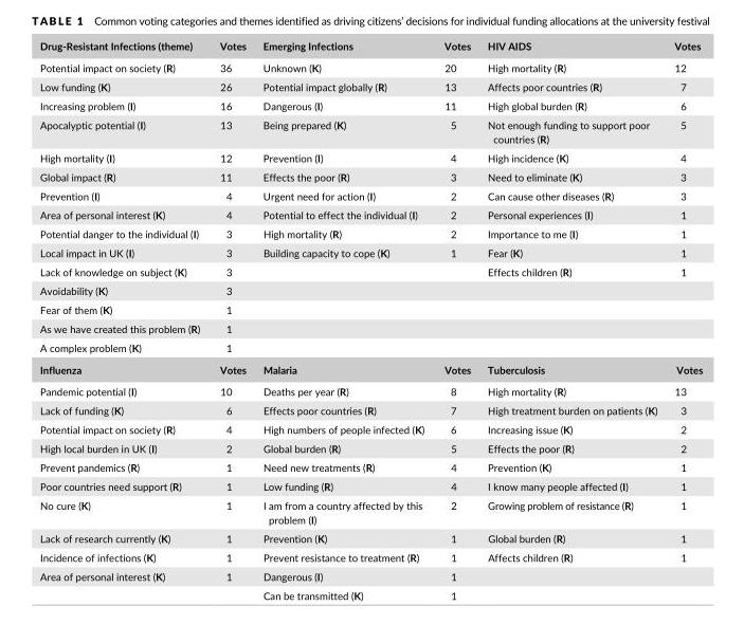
<table><tbody><tr><td>Drug-Resistant Infections (theme)</td><td>Votes</td><td>Emerging Infections</td><td>Votes</td><td>HIV AIDS</td><td>Votes</td></tr><tr><td>Potential impact on society (R)</td><td>36</td><td>Unknown (K)</td><td>20</td><td>High mortality (R)</td><td>12</td></tr><tr><td>Low funding (K)</td><td>26</td><td>Potential impact globally (R)</td><td>13</td><td>Affects poor countries (R)</td><td>7</td></tr><tr><td>Increasing problem (I)</td><td>16</td><td>Dangerous (I)</td><td>11</td><td>High global burden (R)</td><td>6</td></tr><tr><td>Apocalyptic potential (I)</td><td>13</td><td>Being prepared (K)</td><td>5</td><td>Not enough funding to support poor countries (R)</td><td>5</td></tr><tr><td>High mortality (I)</td><td>12</td><td>Prevention (I)</td><td>4</td><td>High incidence (K)</td><td>4</td></tr><tr><td>Global impact (R)</td><td>11</td><td>Effects the poor (R)</td><td>3</td><td>Need to eliminate (K)</td><td>3</td></tr><tr><td>Prevention (I)</td><td>4</td><td>Urgent need for action (I)</td><td>2</td><td>Can cause other diseases (R)</td><td>3</td></tr><tr><td>Area of personal interest (K)</td><td>4</td><td>Potential to effect the individual (I)</td><td>2</td><td>Personal experiences (I)</td><td>1</td></tr><tr><td>Potential danger to the individual (I)</td><td>3</td><td>High mortality (R)</td><td>2</td><td>Importance to me (I)</td><td>1</td></tr><tr><td>Local impact in UK (I)</td><td>3</td><td>Building capacity to cope (K)</td><td>1</td><td>Fear (K)</td><td>1</td></tr><tr><td>Lack of knowledge on subject (K)</td><td>3</td><td></td><td></td><td>Effects children (R)</td><td>1</td></tr><tr><td>Avoidability (K)</td><td>3</td><td></td><td></td><td></td><td></td></tr><tr><td>Fear of them (K)</td><td>1</td><td></td><td></td><td></td><td></td></tr><tr><td>As we have created this problem (R)</td><td>1</td><td></td><td></td><td></td><td></td></tr><tr><td>A complex problem (K)</td><td>1</td><td></td><td></td><td></td><td></td></tr><tr><td>Influenza</td><td>Votes</td><td>Malaria</td><td>Votes</td><td>Tuberculosis</td><td>Votes</td></tr><tr><td>Pandemic potential (I)</td><td>10</td><td>Deaths per year (R)</td><td>8</td><td>High mortality (R)</td><td>13</td></tr><tr><td>Lack of funding (K)</td><td>6</td><td>Effects poor countries (R)</td><td>7</td><td>High treatment burden on patients (K)</td><td>3</td></tr><tr><td>Potential impact on society (R)</td><td>4</td><td>High numbers of people infected (K)</td><td>6</td><td>Increasing issue (K)</td><td>2</td></tr><tr><td>High local burden in UK (I)</td><td>2</td><td>Global burden (R)</td><td>5</td><td>Effects the poor (R)</td><td>2</td></tr><tr><td>Prevent pandemics (R)</td><td>1</td><td>Need new treatments (R)</td><td>4</td><td>Prevention (K)</td><td>1</td></tr><tr><td>Poor countries need support (R)</td><td>1</td><td>Low funding (R)</td><td>4</td><td>I know many people affected (I)</td><td>1</td></tr><tr><td>No cure (K)</td><td>1</td><td>I am from a country affected by this problem (I)</td><td>2</td><td>Growing problem of resistance (R)</td><td>1</td></tr><tr><td>Lack of research currently (K)</td><td>1</td><td>Prevention (K)</td><td>1</td><td>Global burden (R)</td><td>1</td></tr><tr><td>Incidence of infections (K)</td><td>1</td><td>Prevent resistance to treatment (R)</td><td>1</td><td>Affects children (R)</td><td>1</td></tr><tr><td rowspan="2">Area of personal interest (K)</td><td>1</td><td>Dangerous (I)</td><td>1</td><td></td><td></td></tr><tr><td></td><td>Can be transmitted (K)</td><td>1</td><td></td><td></td></tr></tbody></table>